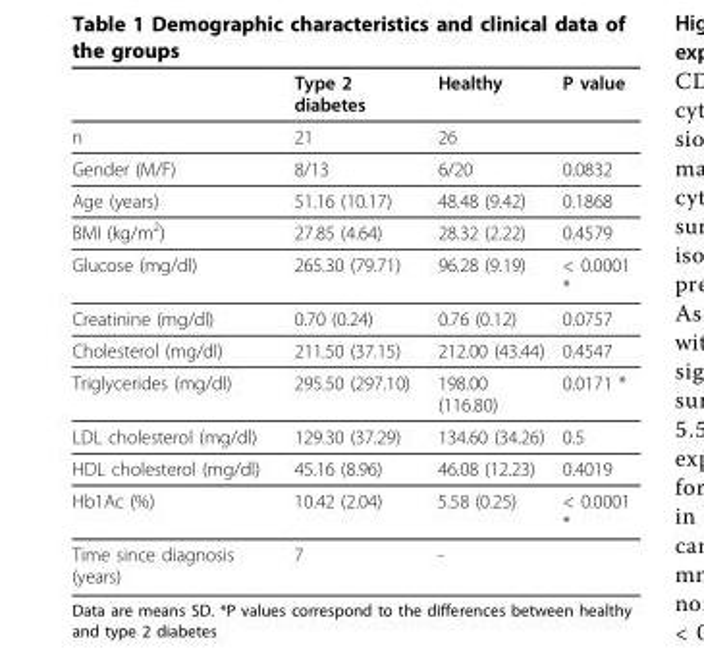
<table><thead><tr><td></td><td>Type 2 diabetes</td><td>Healthy</td><td>P value</td></tr></thead><tbody><tr><td>n</td><td>21</td><td>26</td><td></td></tr><tr><td>Gender (M/F)</td><td>8/13</td><td>6/20</td><td>0.0832</td></tr><tr><td>Age (years)</td><td>51.16 (10.17)</td><td>48.48 (9.42)</td><td>0.1868</td></tr><tr><td>BMI (kg/m<sup>2</sup>)</td><td>27.85 (4.64)</td><td>28.32 (2.22)</td><td>0.4579</td></tr><tr><td>Glucose (mg/dl)</td><td>265.30 (79.71)</td><td>96.28 (9.19)</td><td>&lt; 0.0001 *</td></tr><tr><td>Creatinine (mg/dl)</td><td>0.70 (0.24)</td><td>0.76 (0.12)</td><td>0.0757</td></tr><tr><td>Cholesterol (mg/dl)</td><td>211.50 (37.15)</td><td>212.00 (43.44)</td><td>0.4547</td></tr><tr><td>Triglycerides (mg/dl)</td><td>295.50 (297.10)</td><td>198.00 (116.80)</td><td>0.0171 *</td></tr><tr><td>LDL cholesterol (mg/dl)</td><td>129.30 (37.29)</td><td>134.60 (34.26)</td><td>0.5</td></tr><tr><td>HDL cholesterol (mg/dl)</td><td>45.16 (8.96)</td><td>46.08 (12.23)</td><td>0.4019</td></tr><tr><td>Hb1Ac (%)</td><td>10.42 (2.04)</td><td>5.58 (0.25)</td><td>&lt; 0.0001 *</td></tr><tr><td>Time since diagnosis (years)</td><td>7</td><td>-</td><td></td></tr></tbody></table>